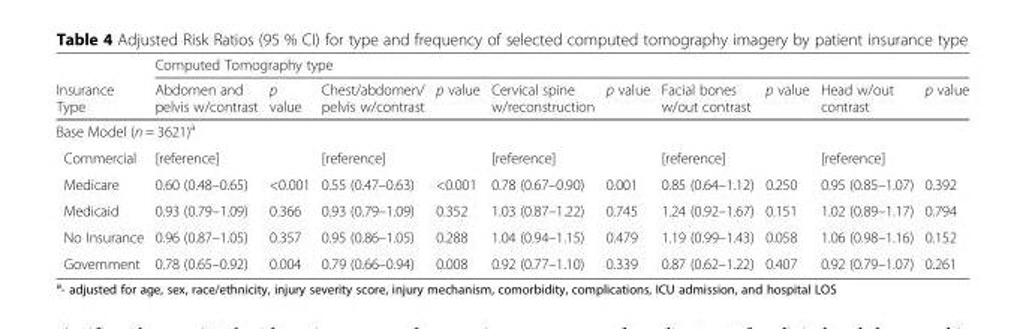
<table><thead><tr><td rowspan="2">Insurance Type</td><td colspan="10">Computed Tomography type</td></tr><tr><td>Abdomen and pelvis w/contrast</td><td>p value</td><td>Chest/abdomen/ pelvis w/contrast</td><td>p value</td><td>Cervical spine w/reconstruction</td><td>p value</td><td>Facial bones w/out contrast</td><td>p value</td><td>Head w/out contrast</td><td>p value</td></tr></thead><tbody><tr><td colspan="11">Base Model (n = 3621)<sup>a</sup></td></tr><tr><td>Commercial</td><td>[reference]</td><td></td><td>[reference]</td><td></td><td>[reference]</td><td></td><td>[reference]</td><td></td><td>[reference]</td><td></td></tr><tr><td>Medicare</td><td>0.60 (0.48–0.65)</td><td>&lt;0.001</td><td>0.55 (0.47–0.63)</td><td>&lt;0.001</td><td>0.78 (0.67–0.90)</td><td>0.001</td><td>0.85 (0.64–1.12)</td><td>0.250</td><td>0.95 (0.85–1.07)</td><td>0.392</td></tr><tr><td>Medicaid</td><td>0.93 (0.79–1.09)</td><td>0.366</td><td>0.93 (0.79–1.09)</td><td>0.352</td><td>1.03 (0.87–1.22)</td><td>0.745</td><td>1.24 (0.92–1.67)</td><td>0.151</td><td>1.02 (0.89–1.17)</td><td>0.794</td></tr><tr><td>No Insurance</td><td>0.96 (0.87–1.05)</td><td>0.357</td><td>0.95 (0.86–1.05)</td><td>0.288</td><td>1.04 (0.94–1.15)</td><td>0.479</td><td>1.19 (0.99–1.43)</td><td>0.058</td><td>1.06 (0.98–1.16)</td><td>0.152</td></tr><tr><td>Government</td><td>0.78 (0.65–0.92)</td><td>0.004</td><td>0.79 (0.66–0.94)</td><td>0.008</td><td>0.92 (0.77–1.10)</td><td>0.339</td><td>0.87 (0.62–1.22)</td><td>0.407</td><td>0.92 (0.79–1.07)</td><td>0.261</td></tr></tbody></table>